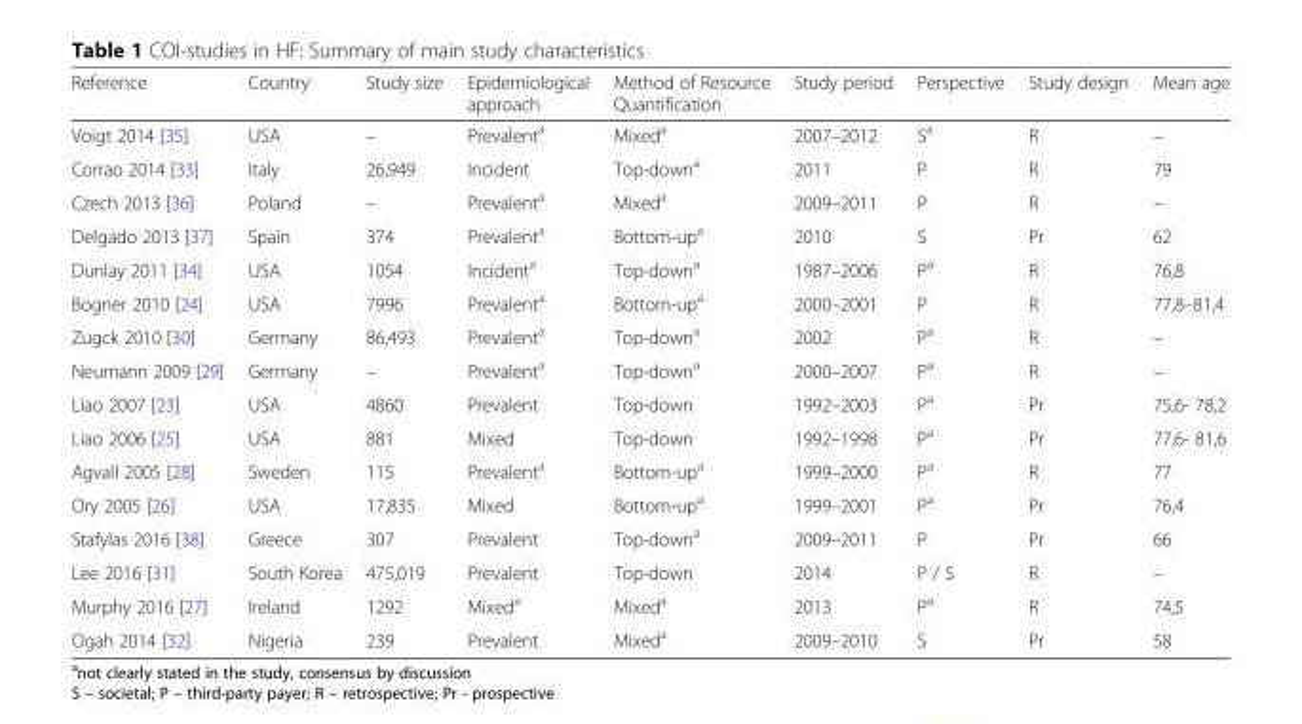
<table><thead><tr><td>Reference</td><td>Country</td><td>Study size</td><td>Epidemiological approach</td><td>Method of Resource Quantification</td><td>Study period</td><td>Perspective</td><td>Study design</td><td>Mean age</td></tr></thead><tbody><tr><td>Voigt 2014 [35]</td><td>USA</td><td>–</td><td>Prevalent<sup>a</sup></td><td>Mixed<sup>a</sup></td><td>2007–2012</td><td>S<sup>a</sup></td><td>R</td><td>–</td></tr><tr><td>Corrao 2014 [33]</td><td>Italy</td><td>26,949</td><td>Incident</td><td>Top-down<sup>a</sup></td><td>2011</td><td>P</td><td>R</td><td>79</td></tr><tr><td>Czech 2013 [36]</td><td>Poland</td><td>–</td><td>Prevalent<sup>a</sup></td><td>Mixed<sup>a</sup></td><td>2009–2011</td><td>P</td><td>R</td><td>–</td></tr><tr><td>Delgado 2013 [37]</td><td>Spain</td><td>374</td><td>Prevalent<sup>a</sup></td><td>Bottom-up<sup>a</sup></td><td>2010</td><td>S</td><td>Pr</td><td>62</td></tr><tr><td>Dunlay 2011 [34]</td><td>USA</td><td>1054</td><td>Incident<sup>a</sup></td><td>Top-down<sup>a</sup></td><td>1987–2006</td><td>P<sup>a</sup></td><td>R</td><td>76,8</td></tr><tr><td>Bogner 2010 [24]</td><td>USA</td><td>7996</td><td>Prevalent<sup>a</sup></td><td>Bottom-up<sup>a</sup></td><td>2000–2001</td><td>P</td><td>R</td><td>77,8–81,4</td></tr><tr><td>Zugck 2010 [30]</td><td>Germany</td><td>86,493</td><td>Prevalent<sup>a</sup></td><td>Top-down<sup>a</sup></td><td>2002</td><td>P<sup>a</sup></td><td>R</td><td>–</td></tr><tr><td>Neumann 2009 [29]</td><td>Germany</td><td>–</td><td>Prevalent<sup>a</sup></td><td>Top-down<sup>a</sup></td><td>2000–2007</td><td>P<sup>a</sup></td><td>R</td><td>–</td></tr><tr><td>Liao 2007 [23]</td><td>USA</td><td>4860</td><td>Prevalent</td><td>Top-down</td><td>1992–2003</td><td>P<sup>a</sup></td><td>Pr</td><td>75,6- 78,2</td></tr><tr><td>Liao 2006 [25]</td><td>USA</td><td>881</td><td>Mixed</td><td>Top-down</td><td>1992–1998</td><td>P<sup>a</sup></td><td>Pr</td><td>77,6- 81,6</td></tr><tr><td>Agvall 2005 [28]</td><td>Sweden</td><td>115</td><td>Prevalent<sup>a</sup></td><td>Bottom-up<sup>a</sup></td><td>1999–2000</td><td>P<sup>a</sup></td><td>R</td><td>77</td></tr><tr><td>Ory 2005 [26]</td><td>USA</td><td>17,835</td><td>Mixed</td><td>Bottom-up<sup>a</sup></td><td>1999–2001</td><td>P<sup>a</sup></td><td>Pr</td><td>76,4</td></tr><tr><td>Stafylas 2016 [38]</td><td>Greece</td><td>307</td><td>Prevalent</td><td>Top-down<sup>a</sup></td><td>2009–2011</td><td>P</td><td>Pr</td><td>66</td></tr><tr><td>Lee 2016 [31]</td><td>South Korea</td><td>475,019</td><td>Prevalent</td><td>Top-down</td><td>2014</td><td>P / S</td><td>R</td><td>–</td></tr><tr><td>Murphy 2016 [27]</td><td>Ireland</td><td>1292</td><td>Mixed<sup>a</sup></td><td>Mixed<sup>a</sup></td><td>2013</td><td>P<sup>a</sup></td><td>R</td><td>74,5</td></tr><tr><td>Ogah 2014 [32]</td><td>Nigeria</td><td>239</td><td>Prevalent</td><td>Mixed<sup>a</sup></td><td>2009–2010</td><td>S</td><td>Pr</td><td>58</td></tr></tbody></table>